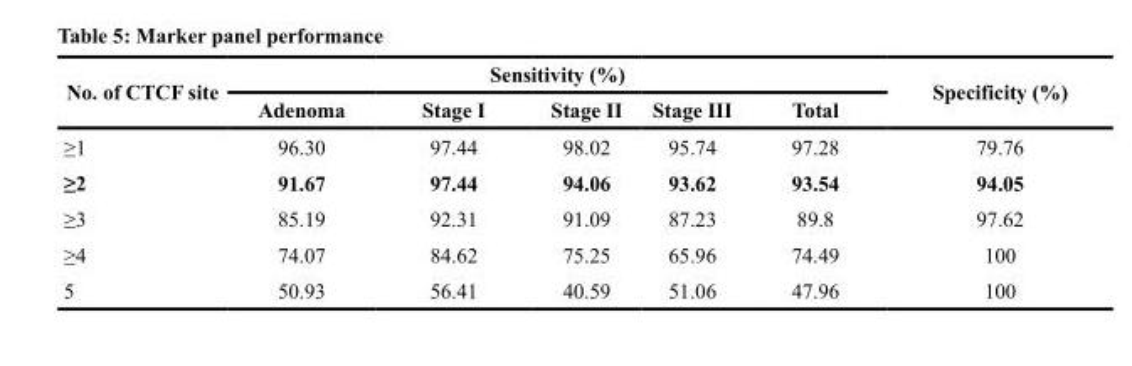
<table><thead><tr><td rowspan="2">No. of CTCF site</td><td colspan="5">Sensitivity (%)</td><td rowspan="2">Specificity (%)</td></tr><tr><td>Adenoma</td><td>Stage I</td><td>Stage II</td><td>Stage III</td><td>Total</td></tr></thead><tbody><tr><td>≥1</td><td>96.30</td><td>97.44</td><td>98.02</td><td>95.74</td><td>97.28</td><td>79.76</td></tr><tr><td>≥2</td><td>91.67</td><td>97.44</td><td>94.06</td><td>93.62</td><td>93.54</td><td>94.05</td></tr><tr><td>≥3</td><td>85.19</td><td>92.31</td><td>91.09</td><td>87.23</td><td>89.8</td><td>97.62</td></tr><tr><td>≥4</td><td>74.07</td><td>84.62</td><td>75.25</td><td>65.96</td><td>74.49</td><td>100</td></tr><tr><td>5</td><td>50.93</td><td>56.41</td><td>40.59</td><td>51.06</td><td>47.96</td><td>100</td></tr></tbody></table>